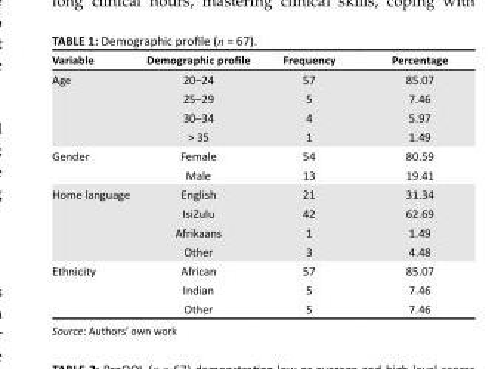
<table><thead><tr><td>Variable</td><td>Demographic profile</td><td>Frequency</td><td>Percentage</td></tr></thead><tbody><tr><td rowspan="4">Age</td><td>20–24</td><td>57</td><td>85.07</td></tr><tr><td>25–29</td><td>5</td><td>7.46</td></tr><tr><td>30–34</td><td>4</td><td>5.97</td></tr><tr><td>&gt; 35</td><td>1</td><td>1.49</td></tr><tr><td rowspan="2">Gender</td><td>Female</td><td>54</td><td>80.59</td></tr><tr><td>Male</td><td>13</td><td>19.41</td></tr><tr><td rowspan="4">Home language</td><td>English</td><td>21</td><td>31.34</td></tr><tr><td>IsiZulu</td><td>42</td><td>62.69</td></tr><tr><td>Afrikaans</td><td>1</td><td>1.49</td></tr><tr><td>Other</td><td>3</td><td>4.48</td></tr><tr><td rowspan="3">Ethnicity</td><td>African</td><td>57</td><td>85.07</td></tr><tr><td>Indian</td><td>5</td><td>7.46</td></tr><tr><td>Other</td><td>5</td><td>7.46</td></tr></tbody></table>